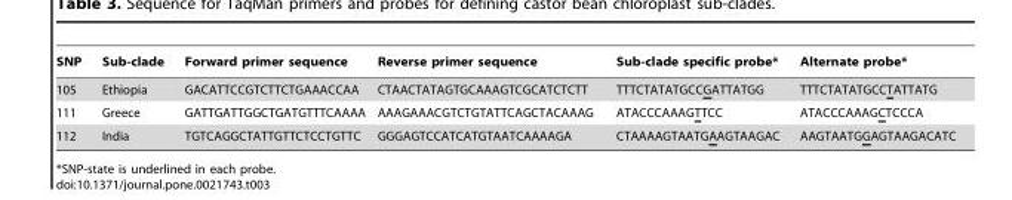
<table><thead><tr><td>SNP</td><td>Sub-clade</td><td>Forward primer sequence</td><td>Reverse primer sequence</td><td>Sub-clade specific probe*</td><td>Alternate probe*</td></tr></thead><tbody><tr><td>105</td><td>Ethiopia</td><td>GACATTCCGTCTTCTGAAACCAA</td><td>CTAACTATAGTGCAAAGTCGCATCTCTT</td><td>TTTCTATATGCCGATTATGG</td><td>TTTCTATATGCCTATTATG</td></tr><tr><td>111</td><td>Greece</td><td>GATTGATTGGCTGATGTTTCAAAA</td><td>AAAGAAACGTCTGTATTCAGCTACAAAG</td><td>ATACCCAAAGTTCC</td><td>ATACCCAAAGCTCCCA</td></tr><tr><td>112</td><td>India</td><td>TGTCAGGCTATTGTTCTCCTGTTC</td><td>GGGAGTCCATCATGTAATCAAAAGA</td><td>CTAAAAGTAATGAAGTAAGAC</td><td>AAGTAATGGAGTAAGACATC</td></tr></tbody></table>